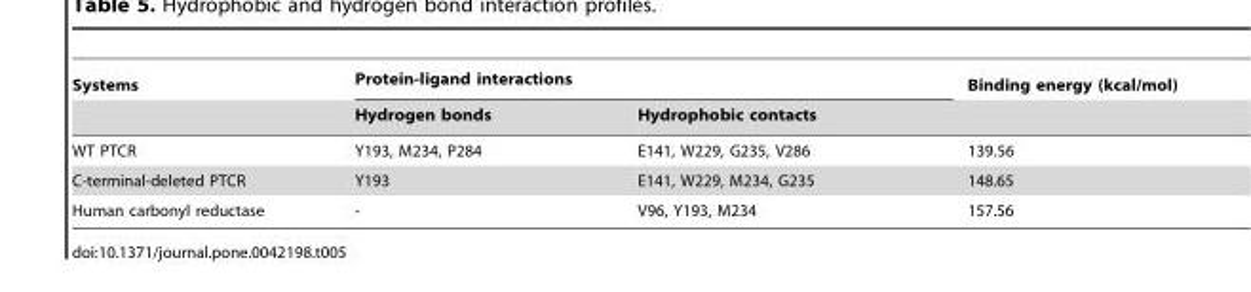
<table><thead><tr><td rowspan="2">Systems</td><td colspan="2">Protein-ligand interactions</td><td rowspan="2">Binding energy (kcal/mol)</td></tr><tr><td>Hydrogen bonds</td><td>Hydrophobic contacts</td></tr></thead><tbody><tr><td>WT PTCR</td><td>Y193, M234, P284</td><td>E141, W229, G235, V286</td><td>139.56</td></tr><tr><td>C-terminal-deleted PTCR</td><td>Y193</td><td>E141, W229, M234, G235</td><td>148.65</td></tr><tr><td>Human carbonyl reductase</td><td>-</td><td>V96, Y193, M234</td><td>157.56</td></tr></tbody></table>